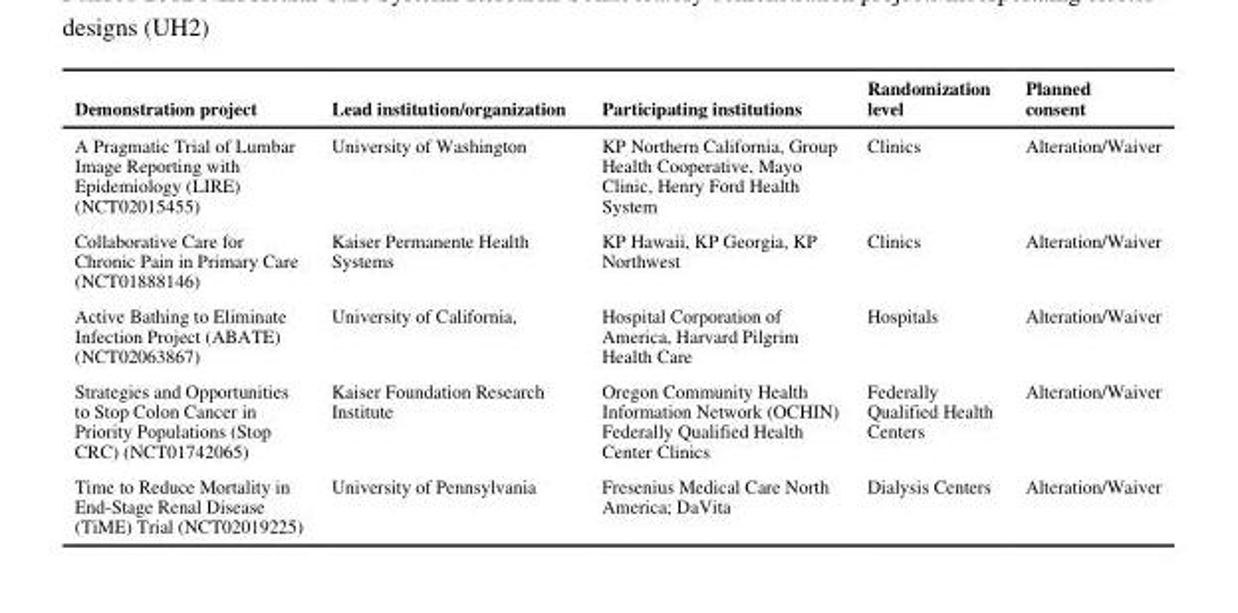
<table><thead><tr><td>Demonstration project</td><td>Lead institution/organization</td><td>Participating institutions</td><td>Randomization level</td><td>Planned consent</td></tr></thead><tbody><tr><td>A Pragmatic Trial of Lumbar Image Reporting with Epidemiology (LIRE) (NCT02015455)</td><td>University of Washington</td><td>KP Northern California, Group Health Cooperative, Mayo Clinic, Henry Ford Health System</td><td>Clinics</td><td>Alteration/Waiver</td></tr><tr><td>Collaborative Care for Chronic Pain in Primary Care (NCT01888146)</td><td>Kaiser Permanente Health Systems</td><td>KP Hawaii, KP Georgia, KP Northwest</td><td>Clinics</td><td>Alteration/Waiver</td></tr><tr><td>Active Bathing to Eliminate Infection Project (ABATE) (NCT02063867)</td><td>University of California,</td><td>Hospital Corporation of America, Harvard Pilgrim Health Care</td><td>Hospitals</td><td>Alteration/Waiver</td></tr><tr><td>Strategies and Opportunities to Stop Colon Cancer in Priority Populations (Stop CRC) (NCT01742065)</td><td>Kaiser Foundation Research Institute</td><td>Oregon Community Health Information Network (OCHIN) Federally Qualified Health Center Clinics</td><td>Federally Qualified Health Centers</td><td>Alteration/Waiver</td></tr><tr><td>Time to Reduce Mortality in End-Stage Renal Disease (TiME) Trial (NCT02019225)</td><td>University of Pennsylvania</td><td>Fresenius Medical Care North America; DaVita</td><td>Dialysis Centers</td><td>Alteration/Waiver</td></tr></tbody></table>